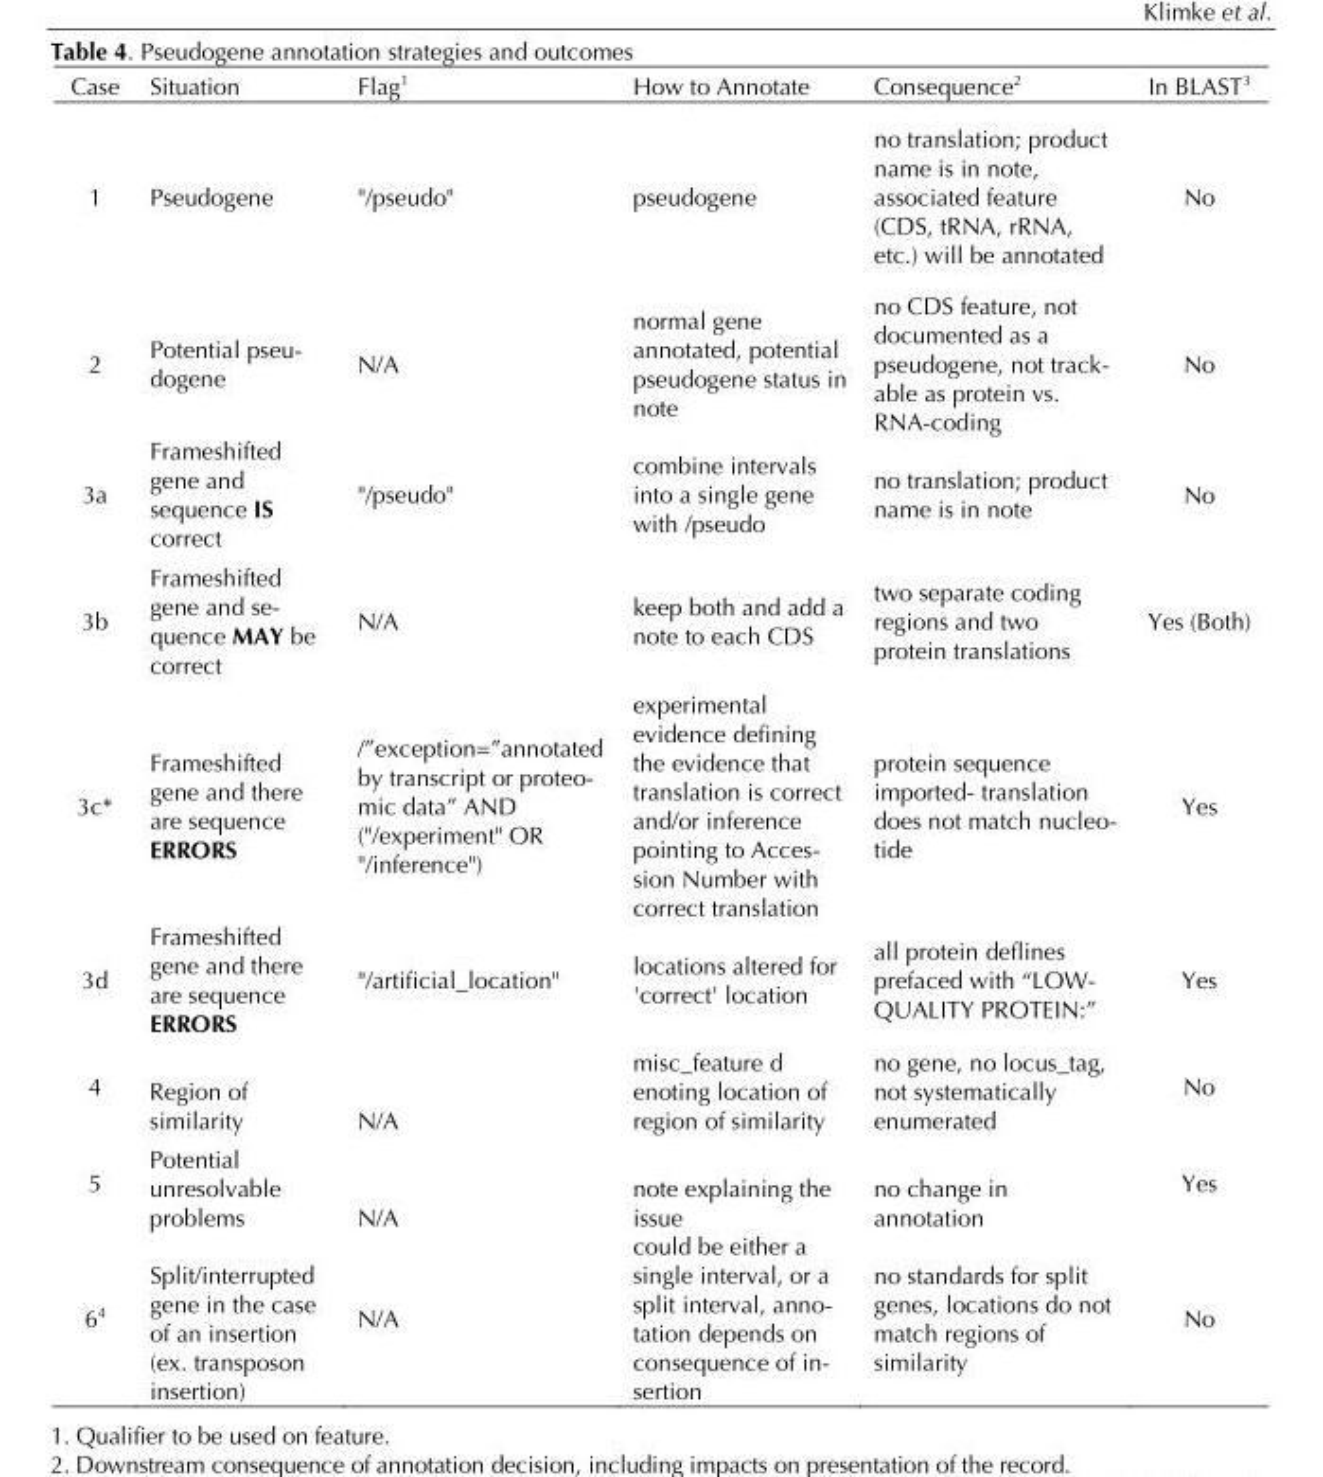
<table><thead><tr><td>Case</td><td>Situation</td><td>Flag<sup>1</sup></td><td>How to Annotate</td><td>Consequence<sup>2</sup></td><td>In BLAST3</td></tr></thead><tbody><tr><td>1</td><td>Pseudogene</td><td>&quot;/pseudo&quot;</td><td>pseudogene</td><td>no translation; product name is in note, associated feature (CDS, tRNA, rRNA, etc.) will be annotated</td><td>No</td></tr><tr><td>2</td><td>Potential pseu- dogene</td><td>N/A</td><td>normal gene annotated, potential pseudogene status in note</td><td>no CDS feature, not documented as a pseudogene, not track- able as protein vs. RNA-coding</td><td>No</td></tr><tr><td>3a</td><td>Frameshifted gene and sequence IS correct</td><td>&quot;/pseudo&quot;</td><td>combine intervals into a single gene with /pseudo</td><td>no translation; product name is in note</td><td>No</td></tr><tr><td>3b</td><td>Frameshifted gene and se- quence MAY be correct</td><td>N/A</td><td>keep both and add a note to each CDS</td><td>two separate coding regions and two protein translations</td><td>Yes (Both)</td></tr><tr><td>3c*</td><td>Frameshifted gene and there are sequence ERRORS</td><td>/”exception=”annotated by transcript or proteo- mic data” AND (&quot;/experiment&quot; OR &quot;/inference&quot;)</td><td>experimental evidence defining the evidence that translation is correct and/or inference pointing to Acces- sion Number with correct translation</td><td>protein sequence imported- translation does not match nucleo- tide</td><td>Yes</td></tr><tr><td>3d</td><td>Frameshifted gene and there are sequence ERRORS</td><td>&quot;/artificial_location&quot;</td><td>locations altered for &#x27;correct&#x27; location</td><td>all protein deflines prefaced with “LOW- QUALITY PROTEIN:”</td><td>Yes</td></tr><tr><td>4</td><td>Region of similarity</td><td>N/A</td><td>misc_feature d enoting location of region of similarity</td><td>no gene, no locus_tag, not systematically enumerated</td><td>No</td></tr><tr><td>5</td><td>Potential unresolvable problems</td><td>N/A</td><td>note explaining the issue</td><td>no change in annotation</td><td>Yes</td></tr><tr><td>6<sup>4</sup></td><td>Split/interrupted gene in the case of an insertion (ex. transposon insertion)</td><td>N/A</td><td>could be either a single interval, or a split interval, anno- tation depends on consequence of in- sertion</td><td>no standards for split genes, locations do not match regions of similarity</td><td>No</td></tr></tbody></table>